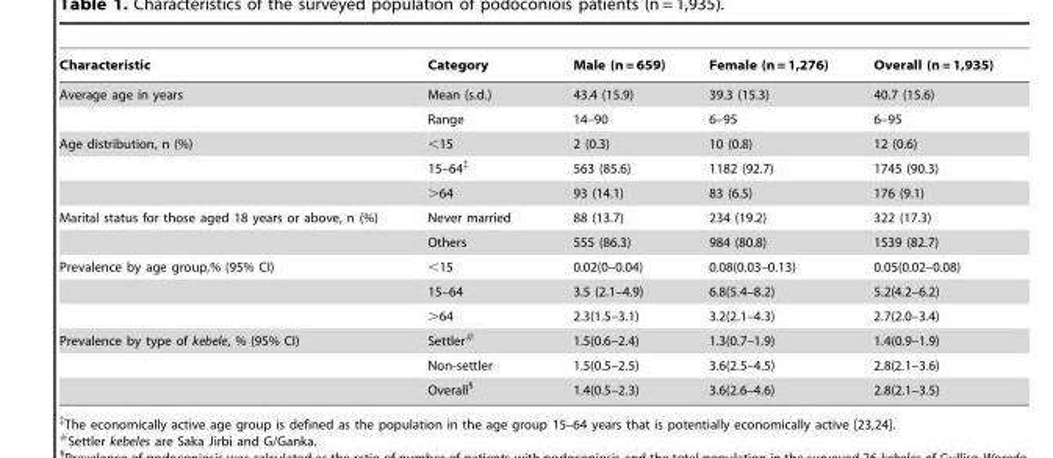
<table><thead><tr><td>Characteristic</td><td>Category</td><td>Male (n = 659)</td><td>Female (n = 1,276)</td><td>Overall (n = 1,935)</td></tr></thead><tbody><tr><td rowspan="2">Average age in years</td><td>Mean (s.d.)</td><td>43.4 (15.9)</td><td>39.3 (15.3)</td><td>40.7 (15.6)</td></tr><tr><td>Range</td><td>14–90</td><td>6–95</td><td>6–95</td></tr><tr><td rowspan="3">Age distribution, n (%)</td><td>&lt;15</td><td>2 (0.3)</td><td>10 (0.8)</td><td>12 (0.6)</td></tr><tr><td>15–64‡</td><td>563 (85.6)</td><td>1182 (92.7)</td><td>1745 (90.3)</td></tr><tr><td>&gt;64</td><td>93 (14.1)</td><td>83 (6.5)</td><td>176 (9.1)</td></tr><tr><td rowspan="2">Marital status for those aged 18 years or above, n (%)</td><td>Never married</td><td>88 (13.7)</td><td>234 (19.2)</td><td>322 (17.3)</td></tr><tr><td>Others</td><td>555 (86.3)</td><td>984 (80.8)</td><td>1539 (82.7)</td></tr><tr><td rowspan="3">Prevalence by age group,% (95% CI)</td><td>&lt;15</td><td>0.02(0–0.04)</td><td>0.08(0.03–0.13)</td><td>0.05(0.02–0.08)</td></tr><tr><td>15–64</td><td>3.5 (2.1–4.9)</td><td>6.8(5.4–8.2)</td><td>5.2(4.2–6.2)</td></tr><tr><td>&gt;64</td><td>2.3(1.5–3.1)</td><td>3.2(2.1–4.3)</td><td>2.7(2.0–3.4)</td></tr><tr><td rowspan="3">Prevalence by type of kebele, % (95% CI)</td><td>Settler#</td><td>1.5(0.6–2.4)</td><td>1.3(0.7–1.9)</td><td>1.4(0.9–1.9)</td></tr><tr><td>Non-settler</td><td>1.5(0.5–2.5)</td><td>3.6(2.5–4.5)</td><td>2.8(2.1–3.6)</td></tr><tr><td>Overall§</td><td>1.4(0.5–2.3)</td><td>3.6(2.6–4.6)</td><td>2.8(2.1–3.5)</td></tr></tbody></table>